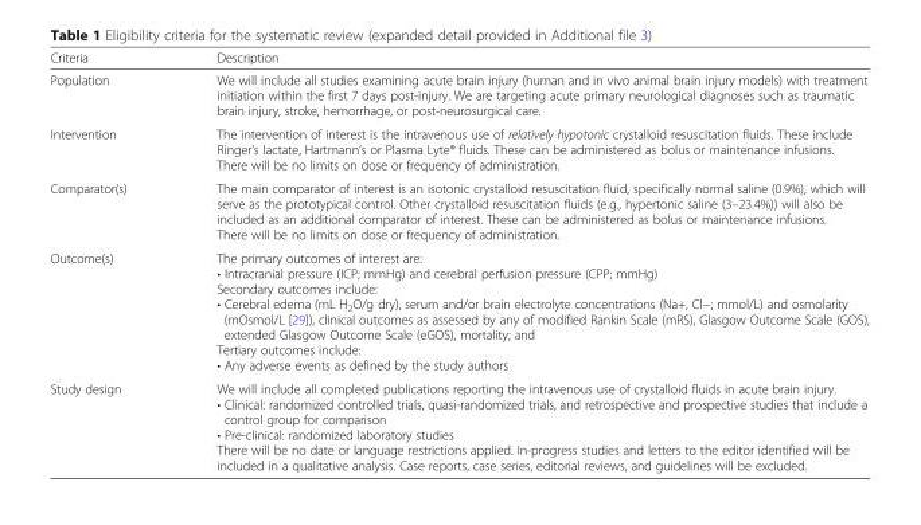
<table><thead><tr><td>Criteria</td><td>Description</td></tr></thead><tbody><tr><td>Population</td><td>We will include all studies examining acute brain injury (human and in vivo animal brain injury models) with treatment initiation within the first 7 days post-injury. We are targeting acute primary neurological diagnoses such as traumatic brain injury, stroke, hemorrhage, or post-neurosurgical care.</td></tr><tr><td>Intervention</td><td>The intervention of interest is the intravenous use of relatively hypotonic crystalloid resuscitation fluids. These include Ringer’s lactate, Hartmann’s or Plasma Lyte® fluids. These can be administered as bolus or maintenance infusions. There will be no limits on dose or frequency of administration.</td></tr><tr><td>Comparator(s)</td><td>The main comparator of interest is an isotonic crystalloid resuscitation fluid, specifically normal saline (0.9%), which will serve as the prototypical control. Other crystalloid resuscitation fluids (e.g., hypertonic saline (3–23.4%)) will also be included as an additional comparator of interest. These can be administered as bolus or maintenance infusions. There will be no limits on dose or frequency of administration.</td></tr><tr><td>Outcome(s)</td><td>The primary outcomes of interest are: • Intracranial pressure (ICP; mmHg) and cerebral perfusion pressure (CPP; mmHg) Secondary outcomes include: • Cerebral edema (mL H<sub>2</sub>O/g dry), serum and/or brain electrolyte concentrations (Na+, Cl−; mmol/L) and osmolarity (mOsmol/L [29]), clinical outcomes as assessed by any of modified Rankin Scale (mRS), Glasgow Outcome Scale (GOS), extended Glasgow Outcome Scale (eGOS), mortality; and Tertiary outcomes include: • Any adverse events as defined by the study authors</td></tr><tr><td>Study design</td><td>We will include all completed publications reporting the intravenous use of crystalloid fluids in acute brain injury. • Clinical: randomized controlled trials, quasi-randomized trials, and retrospective and prospective studies that include a control group for comparison • Pre-clinical: randomized laboratory studies There will be no date or language restrictions applied. In-progress studies and letters to the editor identified will be included in a qualitative analysis. Case reports, case series, editorial reviews, and guidelines will be excluded.</td></tr></tbody></table>